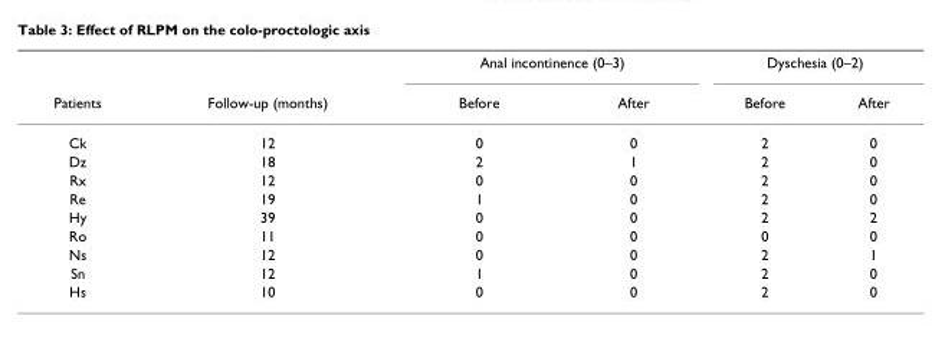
<table><thead><tr><td rowspan="2">Patients</td><td rowspan="2">Follow-up (months)</td><td colspan="2">Anal incontinence (0–3)</td><td colspan="2">Dyschesia (0–2)</td></tr><tr><td>Before</td><td>After</td><td>Before</td><td>After</td></tr></thead><tbody><tr><td>Ck</td><td>12</td><td>0</td><td>0</td><td>2</td><td>0</td></tr><tr><td>Dz</td><td>18</td><td>2</td><td>1</td><td>2</td><td>0</td></tr><tr><td>Rx</td><td>12</td><td>0</td><td>0</td><td>2</td><td>0</td></tr><tr><td>Re</td><td>19</td><td>1</td><td>0</td><td>2</td><td>0</td></tr><tr><td>Hy</td><td>39</td><td>0</td><td>0</td><td>2</td><td>2</td></tr><tr><td>Ro</td><td>11</td><td>0</td><td>0</td><td>0</td><td>0</td></tr><tr><td>Ns</td><td>12</td><td>0</td><td>0</td><td>2</td><td>1</td></tr><tr><td>Sn</td><td>12</td><td>1</td><td>0</td><td>2</td><td>0</td></tr><tr><td>Hs</td><td>10</td><td>0</td><td>0</td><td>2</td><td>0</td></tr></tbody></table>